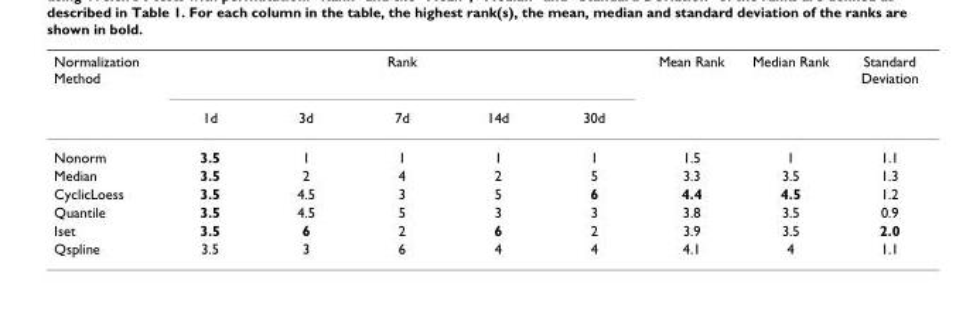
<table><thead><tr><td rowspan="2">Normalization Method</td><td colspan="5">Rank</td><td rowspan="2">Mean Rank</td><td rowspan="2">Median Rank</td><td rowspan="2">Standard Deviation</td></tr><tr><td>1d</td><td>3d</td><td>7d</td><td>14d</td><td>30d</td></tr></thead><tbody><tr><td>Nonorm</td><td>3.5</td><td>1</td><td>1</td><td>1</td><td>1</td><td>1.5</td><td>1</td><td>1.1</td></tr><tr><td>Median</td><td>3.5</td><td>2</td><td>4</td><td>2</td><td>5</td><td>3.3</td><td>3.5</td><td>1.3</td></tr><tr><td>CyclicLoess</td><td>3.5</td><td>4.5</td><td>3</td><td>5</td><td>6</td><td>4.4</td><td>4.5</td><td>1.2</td></tr><tr><td>Quantile</td><td>3.5</td><td>4.5</td><td>5</td><td>3</td><td>3</td><td>3.8</td><td>3.5</td><td>0.9</td></tr><tr><td>Iset</td><td>3.5</td><td>6</td><td>2</td><td>6</td><td>2</td><td>3.9</td><td>3.5</td><td>2.0</td></tr><tr><td>Qspline</td><td>3.5</td><td>3</td><td>6</td><td>4</td><td>4</td><td>4.1</td><td>4</td><td>1.1</td></tr></tbody></table>